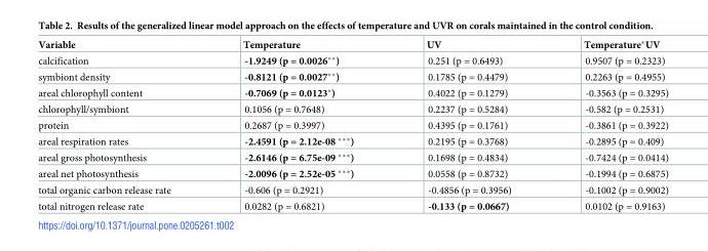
<table><thead><tr><td>Variable</td><td>Temperature</td><td>UV</td><td>Temperature*UV</td></tr></thead><tbody><tr><td>calcification</td><td>-1.9249 (p = 0.0026**)</td><td>0.251 (p = 0.6493)</td><td>0.9507 (p = 0.2323)</td></tr><tr><td>symbiont density</td><td>-0.8121 (p = 0.0027**)</td><td>0.1785 (p = 0.4479)</td><td>0.2263 (p = 0.4955)</td></tr><tr><td>areal chlorophyll content</td><td>-0.7069 (p = 0.0123*)</td><td>0.4022 (p = 0.1279)</td><td>-0.3563 (p = 0.3295)</td></tr><tr><td>chlorophyll/symbiont</td><td>0.1056 (p = 0.7648)</td><td>0.2237 (p = 0.5284)</td><td>-0.582 (p = 0.2531)</td></tr><tr><td>protein</td><td>0.2687 (p = 0.3997)</td><td>0.4395 (p = 0.1761)</td><td>-0.3861 (p = 0.3922)</td></tr><tr><td>areal respiration rates</td><td>-2.4591 (p = 2.12e-08 ***)</td><td>0.2195 (p = 0.3768)</td><td>-0.2895 (p = 0.409)</td></tr><tr><td>areal gross photosynthesis</td><td>-2.6146 (p = 6.75e-09 ***)</td><td>0.1698 (p = 0.4834)</td><td>-0.7424 (p = 0.0414)</td></tr><tr><td>areal net photosynthesis</td><td>-2.0096 (p = 2.52e-05 ***)</td><td>0.0558 (p = 0.8732)</td><td>-0.1994 (p = 0.6875)</td></tr><tr><td>total organic carbon release rate</td><td>-0.606 (p = 0.2921)</td><td>-0.4856 (p = 0.3956)</td><td>-0.1002 (p = 0.9002)</td></tr><tr><td>total nitrogen release rate</td><td>0.0282 (p = 0.6821)</td><td>-0.133 (p = 0.0667)</td><td>0.0102 (p = 0.9163)</td></tr></tbody></table>